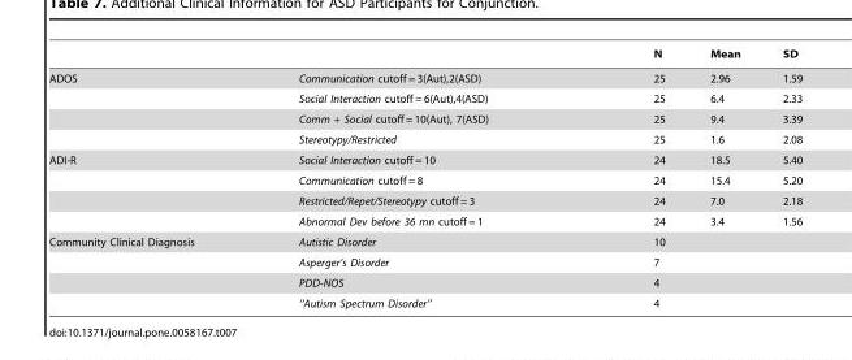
<table><thead><tr><td></td><td></td><td>N</td><td>Mean</td><td>SD</td></tr></thead><tbody><tr><td rowspan="4">ADOS</td><td>Communication cutoff = 3(Aut),2(ASD)</td><td>25</td><td>2.96</td><td>1.59</td></tr><tr><td>Social Interaction cutoff = 6(Aut),4(ASD)</td><td>25</td><td>6.4</td><td>2.33</td></tr><tr><td>Comm + Social cutoff = 10(Aut), 7(ASD)</td><td>25</td><td>9.4</td><td>3.39</td></tr><tr><td>Stereotypy/Restricted</td><td>25</td><td>1.6</td><td>2.08</td></tr><tr><td rowspan="4">ADI-R</td><td>Social Interaction cutoff = 10</td><td>24</td><td>18.5</td><td>5.40</td></tr><tr><td>Communication cutoff = 8</td><td>24</td><td>15.4</td><td>5.20</td></tr><tr><td>Restricted/Repet/Stereotypy cutoff = 3</td><td>24</td><td>7.0</td><td>2.18</td></tr><tr><td>Abnormal Dev before 36 mn cutoff = 1</td><td>24</td><td>3.4</td><td>1.56</td></tr><tr><td rowspan="4">Community Clinical Diagnosis</td><td>Autistic Disorder</td><td>10</td><td></td><td></td></tr><tr><td>Asperger’s Disorder</td><td>7</td><td></td><td></td></tr><tr><td>PDD-NOS</td><td>4</td><td></td><td></td></tr><tr><td>‘‘Autism Spectrum Disorder’’</td><td>4</td><td></td><td></td></tr></tbody></table>